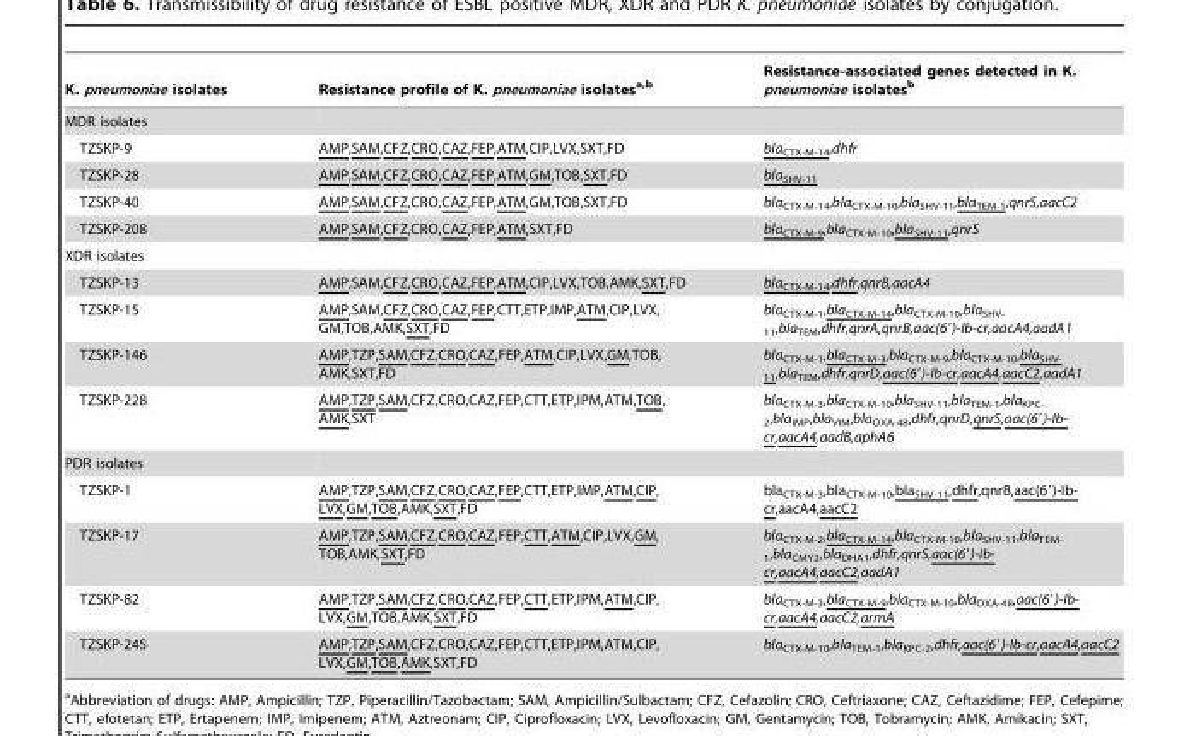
<table><thead><tr><td>K. pneumoniae isolates</td><td>Resistance profile of K. pneumoniae isolatesa,b</td><td>Resistance-associated genes detected in K. pneumoniae isolates<sup>b</sup></td></tr></thead><tbody><tr><td colspan="3">MDR isolates</td></tr><tr><td>TZSKP-9</td><td>AMP,SAM,CFZ,CRO,CAZ,FEP,ATM,CIP,LVX,SXT,FD</td><td>bla<sub>CTX-M-14</sub>,dhfr</td></tr><tr><td>TZSKP-28</td><td>AMP,SAM,CFZ,CRO,CAZ,FEP,ATM,GM,TOB,SXT,FD</td><td>bla<sub>SHV-11</sub></td></tr><tr><td>TZSKP-40</td><td>AMP,SAM,CFZ,CRO,CAZ,FEP,ATM,GM,TOB,SXT,FD</td><td>bla<sub>CTX-M-14</sub>,bla<sub>CTX-M-10</sub>,bla<sub>SHV-11</sub>,bla<sub>TEM-1</sub>,qnrS,aacC2</td></tr><tr><td>TZSKP-208</td><td>AMP,SAM,CFZ,CRO,CAZ,FEP,ATM,SXT,FD</td><td>bla<sub>CTX-M-9</sub>,bla<sub>CTX-M-10</sub>,bla<sub>SHV-11</sub>,qnrS</td></tr><tr><td colspan="3">XDR isolates</td></tr><tr><td>TZSKP-13</td><td>AMP,SAM,CFZ,CRO,CAZ,FEP,ATM,CIP,LVX,TOB,AMK,SXT,FD</td><td>bla<sub>CTX-M-14</sub>,dhfr,qnrB,aacA4</td></tr><tr><td>TZSKP-15</td><td>AMP,SAM,CFZ,CRO,CAZ,FEP,CTT,ETP,IMP,ATM,CIP,LVX, GM,TOB,AMK,SXT,FD</td><td>bla<sub>CTX-M-1</sub>,bla<sub>CTX-M-14</sub>,bla<sub>CTX-M-10</sub>,bla<sub>SHV- 11</sub>,bla<sub>TEM</sub>,dhfr,qnrA,qnrB,aac(6′)-Ib-cr,aacA4,aadA1</td></tr><tr><td>TZSKP-146</td><td>AMP,TZP,SAM,CFZ,CRO,CAZ,FEP,ATM,CIP,LVX,GM,TOB, AMK,SXT,FD</td><td>bla<sub>CTX-M-1</sub>,bla<sub>CTX-M-3</sub>,bla<sub>CTX-M-9</sub>,bla<sub>CTX-M-10</sub>,bla<sub>SHV- 11</sub>,bla<sub>TEM</sub>,dhfr,qnrD,aac(6′)-Ib-cr,aacA4,aacC2,aadA1</td></tr><tr><td>TZSKP-228</td><td>AMP,TZP,SAM,CFZ,CRO,CAZ,FEP,CTT,ETP,IPM,ATM,TOB, AMK,SXT</td><td>bla<sub>CTX-M-3</sub>,bla<sub>CTX-M-10</sub>,bla<sub>SHV-11</sub>,bla<sub>TEM-1</sub>,bla<sub>KPC- 2</sub>,bla<sub>IMP</sub>,bla<sub>VIM</sub>,bla<sub>OXA-48</sub>,dhfr,qnrD,qnrS,aac(6′)-Ib- cr,aacA4,aadB,aphA6</td></tr><tr><td colspan="3">PDR isolates</td></tr><tr><td>TZSKP-1</td><td>AMP,TZP,SAM,CFZ,CRO,CAZ,FEP,CTT,ETP,IMP,ATM,CIP, LVX,GM,TOB,AMK,SXT,FD</td><td>bla<sub>CTX-M-3</sub>,bla<sub>CTX-M-10</sub>,bla<sub>SHV-11</sub>,dhfr,qnrB,aac(6′)-Ib- cr,aacA4,aacC2</td></tr><tr><td>TZSKP-17</td><td>AMP,TZP,SAM,CFZ,CRO,CAZ,FEP,CTT,ATM,CIP,LVX,GM, TOB,AMK,SXT,FD</td><td>bla<sub>CTX-M-2</sub>,bla<sub>CTX-M-14</sub>,bla<sub>CTX-M-10</sub>,bla<sub>SHV-11</sub>,bla<sub>TEM- 1</sub>,bla<sub>CMY2</sub>,bla<sub>DHA1</sub>,dhfr,qnrS,aac(6′)-Ib- cr,aacA4,aacC2,aadA1</td></tr><tr><td>TZSKP-82</td><td>AMP,TZP,SAM,CFZ,CRO,CAZ,FEP,CTT,ETP,IPM,ATM,CIP, LVX,GM,TOB,AMK,SXT,FD</td><td>bla<sub>CTX-M-3</sub>,bla<sub>CTX-M-9</sub>,bla<sub>CTX-M-10</sub>,bla<sub>OXA-48</sub>,aac(6′)-Ib- cr,aacA4,aacC2,armA</td></tr><tr><td>TZSKP-245</td><td>AMP,TZP,SAM,CFZ,CRO,CAZ,FEP,CTT,ETP,IPM,ATM,CIP, LVX,GM,TOB,AMK,SXT,FD</td><td>bla<sub>CTX-M-10</sub>,bla<sub>TEM-1</sub>,bla<sub>KPC-2</sub>,dhfr,aac(6′)-Ib-cr,aacA4,aacC2</td></tr></tbody></table>